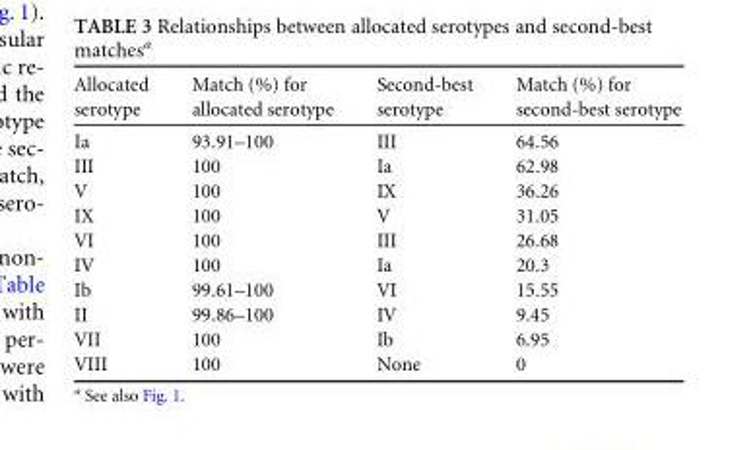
<table><thead><tr><td>Allocated serotype</td><td>Match (%) for allocated serotype</td><td>Second-best serotype</td><td>Match (%) for second-best serotype</td></tr></thead><tbody><tr><td>Ia</td><td>93.91–100</td><td>III</td><td>64.56</td></tr><tr><td>III</td><td>100</td><td>Ia</td><td>62.98</td></tr><tr><td>V</td><td>100</td><td>IX</td><td>36.26</td></tr><tr><td>IX</td><td>100</td><td>V</td><td>31.05</td></tr><tr><td>VI</td><td>100</td><td>III</td><td>26.68</td></tr><tr><td>IV</td><td>100</td><td>Ia</td><td>20.3</td></tr><tr><td>Ib</td><td>99.61–100</td><td>VI</td><td>15.55</td></tr><tr><td>II</td><td>99.86–100</td><td>IV</td><td>9.45</td></tr><tr><td>VII</td><td>100</td><td>Ib</td><td>6.95</td></tr><tr><td>VIII</td><td>100</td><td>None</td><td>0</td></tr></tbody></table>